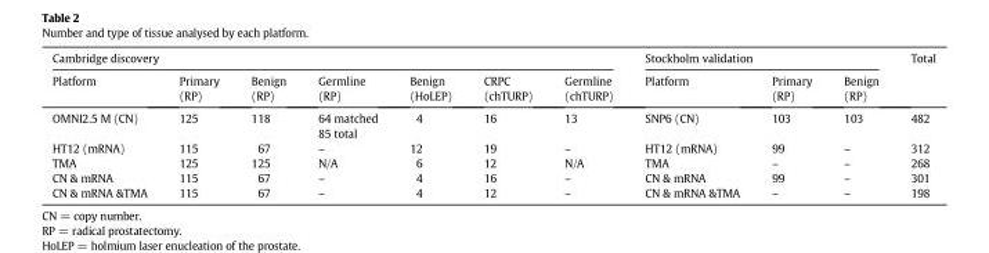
<table><thead><tr><td colspan="7">Cambridge discovery</td><td colspan="3">Stockholm validation</td><td rowspan="2">Total</td></tr><tr><td>Platform</td><td>Primary (RP)</td><td>Benign (RP)</td><td>Germline (RP)</td><td>Benign (HoLEP)</td><td>CRPC (chTURP)</td><td>Germline (chTURP)</td><td>Platform</td><td>Primary (RP)</td><td>Benign (RP)</td></tr></thead><tbody><tr><td>OMNI2.5 M (CN)</td><td>125</td><td>118</td><td>64 matched 85 total</td><td>4</td><td>16</td><td>13</td><td>SNP6 (CN)</td><td>103</td><td>103</td><td>482</td></tr><tr><td>HT12 (mRNA)</td><td>115</td><td>67</td><td>–</td><td>12</td><td>19</td><td>–</td><td>HT12 (mRNA)</td><td>99</td><td>–</td><td>312</td></tr><tr><td>TMA</td><td>125</td><td>125</td><td>N/A</td><td>6</td><td>12</td><td>N/A</td><td>TMA</td><td>–</td><td>–</td><td>268</td></tr><tr><td>CN &amp; mRNA</td><td>115</td><td>67</td><td>–</td><td>4</td><td>16</td><td>–</td><td>CN &amp; mRNA</td><td>99</td><td>–</td><td>301</td></tr><tr><td>CN &amp; mRNA &amp;TMA</td><td>115</td><td>67</td><td>–</td><td>4</td><td>12</td><td>–</td><td>CN &amp; mRNA &amp;TMA</td><td>–</td><td>–</td><td>198</td></tr></tbody></table>